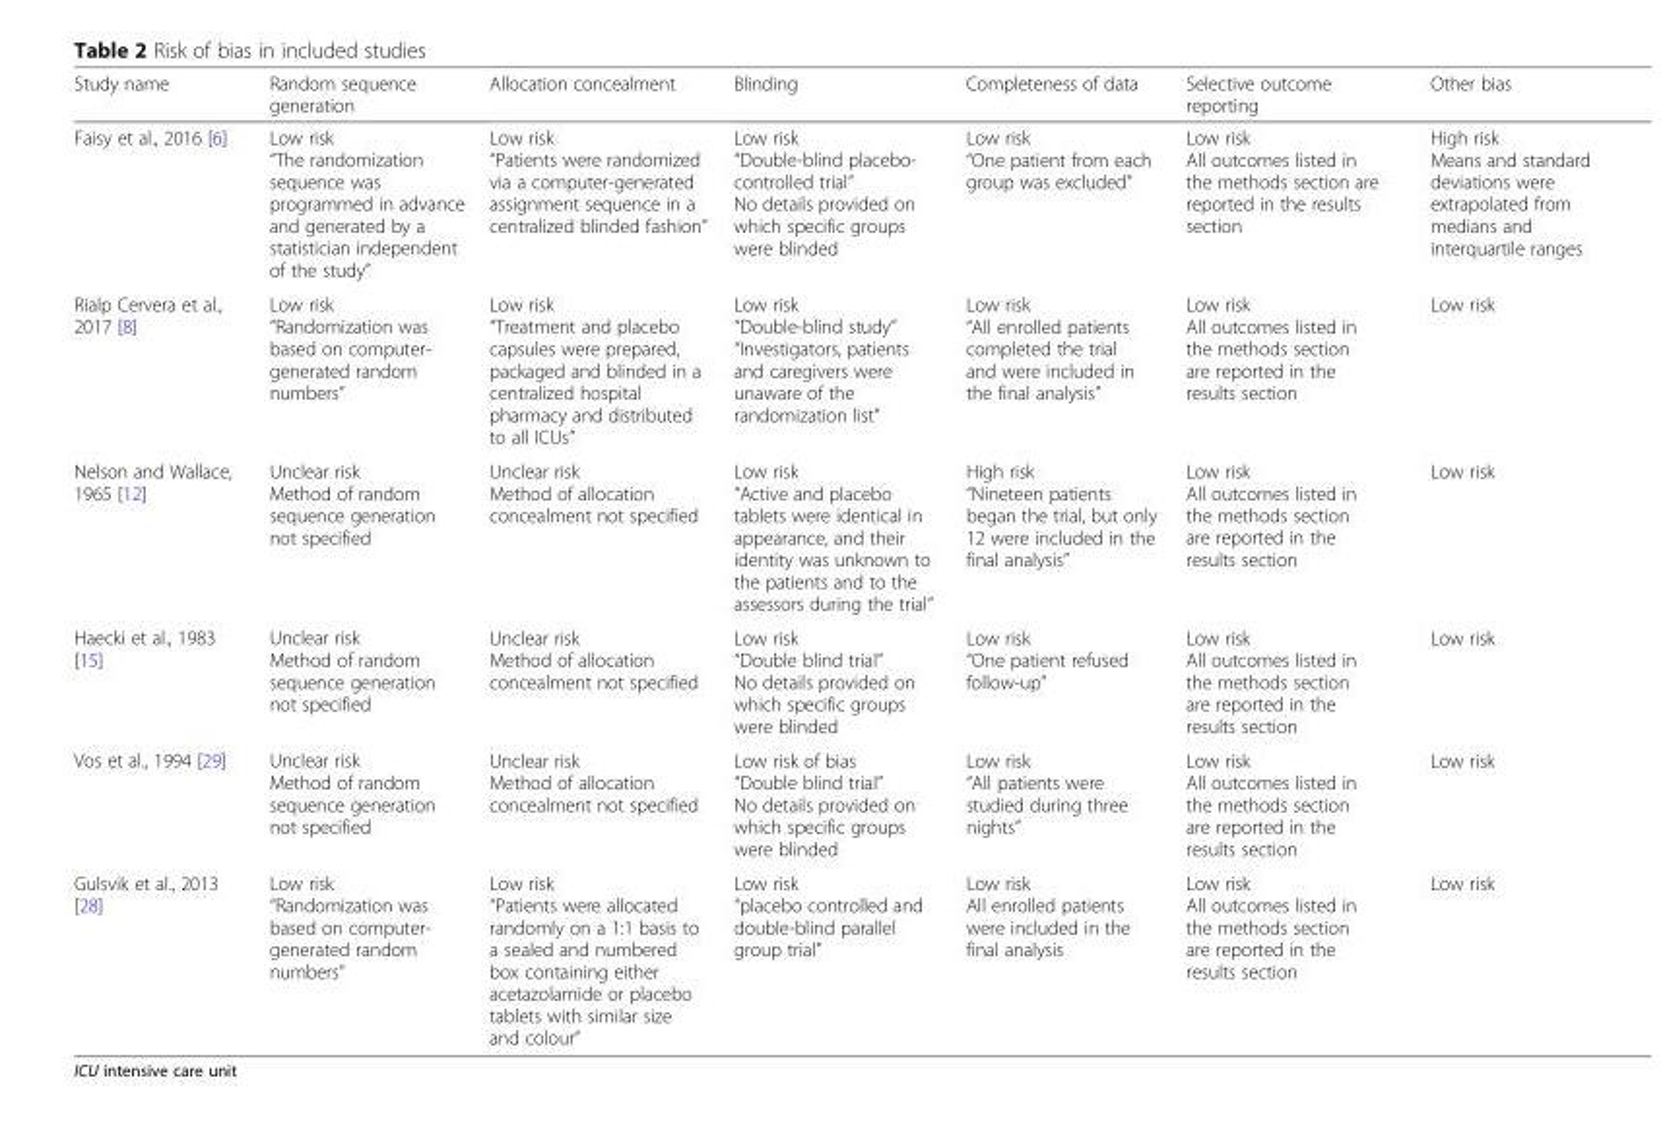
<table><thead><tr><td>Study name</td><td>Random sequence generation</td><td>Allocation concealment</td><td>Blinding</td><td>Completeness of data</td><td>Selective outcome reporting</td><td>Other bias</td></tr></thead><tbody><tr><td>Faisy et al., 2016 [6]</td><td>Low risk “The randomization sequence was programmed in advance and generated by a statistician independent of the study”</td><td>Low risk “Patients were randomized via a computer-generated assignment sequence in a centralized blinded fashion”</td><td>Low risk “Double-blind placebo- controlled trial” No details provided on which specific groups were blinded</td><td>Low risk “One patient from each group was excluded”</td><td>Low risk All outcomes listed in the methods section are reported in the results section</td><td>High risk Means and standard deviations were extrapolated from medians and interquartile ranges</td></tr><tr><td>Rialp Cervera et al., 2017 [8]</td><td>Low risk “Randomization was based on computer- generated random numbers”</td><td>Low risk “Treatment and placebo capsules were prepared, packaged and blinded in a centralized hospital pharmacy and distributed to all ICUs”</td><td>Low risk “Double-blind study” “Investigators, patients and caregivers were unaware of the randomization list”</td><td>Low risk “All enrolled patients completed the trial and were included in the final analysis”</td><td>Low risk All outcomes listed in the methods section are reported in the results section</td><td>Low risk</td></tr><tr><td>Nelson and Wallace, 1965 [12]</td><td>Unclear risk Method of random sequence generation not specified</td><td>Unclear risk Method of allocation concealment not specified</td><td>Low risk “Active and placebo tablets were identical in appearance, and their identity was unknown to the patients and to the assessors during the trial”</td><td>High risk “Nineteen patients began the trial, but only 12 were included in the final analysis”</td><td>Low risk All outcomes listed in the methods section are reported in the results section</td><td>Low risk</td></tr><tr><td>Haecki et al., 1983 [15]</td><td>Unclear risk Method of random sequence generation not specified</td><td>Unclear risk Method of allocation concealment not specified</td><td>Low risk “Double blind trial” No details provided on which specific groups were blinded</td><td>Low risk “One patient refused follow-up”</td><td>Low risk All outcomes listed in the methods section are reported in the results section</td><td>Low risk</td></tr><tr><td>Vos et al., 1994 [29]</td><td>Unclear risk Method of random sequence generation not specified</td><td>Unclear risk Method of allocation concealment not specified</td><td>Low risk of bias “Double blind trial” No details provided on which specific groups were blinded</td><td>Low risk “All patients were studied during three nights”</td><td>Low risk All outcomes listed in the methods section are reported in the results section</td><td>Low risk</td></tr><tr><td>Gulsvik et al., 2013 [28]</td><td>Low risk “Randomization was based on computer- generated random numbers”</td><td>Low risk “Patients were allocated randomly on a 1:1 basis to a sealed and numbered box containing either acetazolamide or placebo tablets with similar size and colour”</td><td>Low risk “placebo controlled and double-blind parallel group trial”</td><td>Low risk All enrolled patients were included in the final analysis</td><td>Low risk All outcomes listed in the methods section are reported in the results section</td><td>Low risk</td></tr></tbody></table>